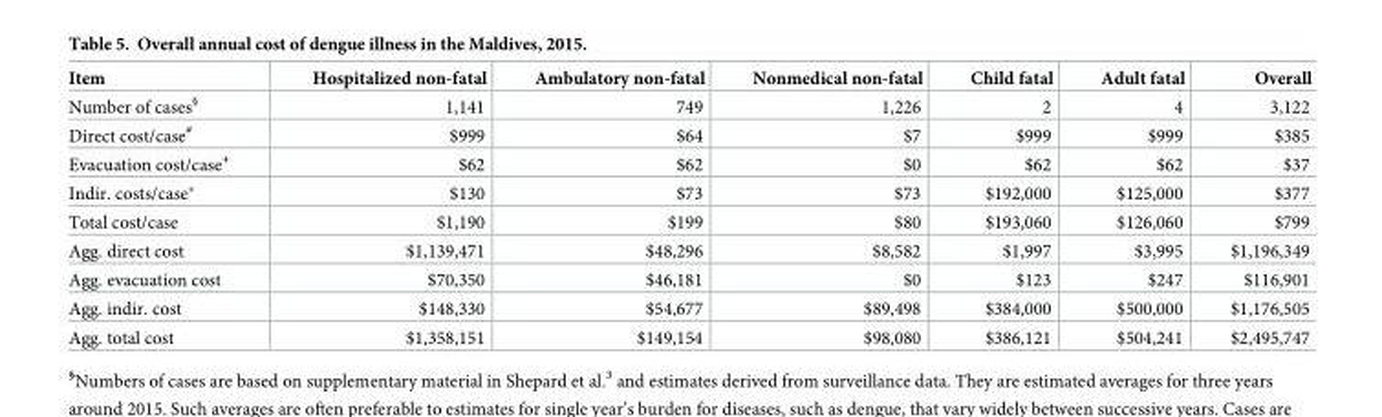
<table><thead><tr><td>Item</td><td>Hospitalized non-fatal</td><td>Ambulatory non-fatal</td><td>Nonmedical non-fatal</td><td>Child fatal</td><td>Adult fatal</td><td>Overall</td></tr></thead><tbody><tr><td>Number of cases<sup>§</sup></td><td>1,141</td><td>749</td><td>1,226</td><td>2</td><td>4</td><td>3,122</td></tr><tr><td>Direct cost/case<sup>#</sup></td><td>$999</td><td>$64</td><td>$7</td><td>$999</td><td>$999</td><td>$385</td></tr><tr><td>Evacuation cost/case<sup>+</sup></td><td>$62</td><td>$62</td><td>$0</td><td>$62</td><td>$62</td><td>$37</td></tr><tr><td>Indir. costs/case*</td><td>$130</td><td>$73</td><td>$73</td><td>$192,000</td><td>$125,000</td><td>$377</td></tr><tr><td>Total cost/case</td><td>$1,190</td><td>$199</td><td>$80</td><td>$193,060</td><td>$126,060</td><td>$799</td></tr><tr><td>Agg. direct cost</td><td>$1,139,471</td><td>$48,296</td><td>$8,582</td><td>$1,997</td><td>$3,995</td><td>$1,196,349</td></tr><tr><td>Agg. evacuation cost</td><td>$70,350</td><td>$46,181</td><td>$0</td><td>$123</td><td>$247</td><td>$116,901</td></tr><tr><td>Agg. indir. cost</td><td>$148,330</td><td>$54,677</td><td>$89,498</td><td>$384,000</td><td>$500,000</td><td>$1,176,505</td></tr><tr><td>Agg. total cost</td><td>$1,358,151</td><td>$149,154</td><td>$98,080</td><td>$386,121</td><td>$504,241</td><td>$2,495,747</td></tr></tbody></table>